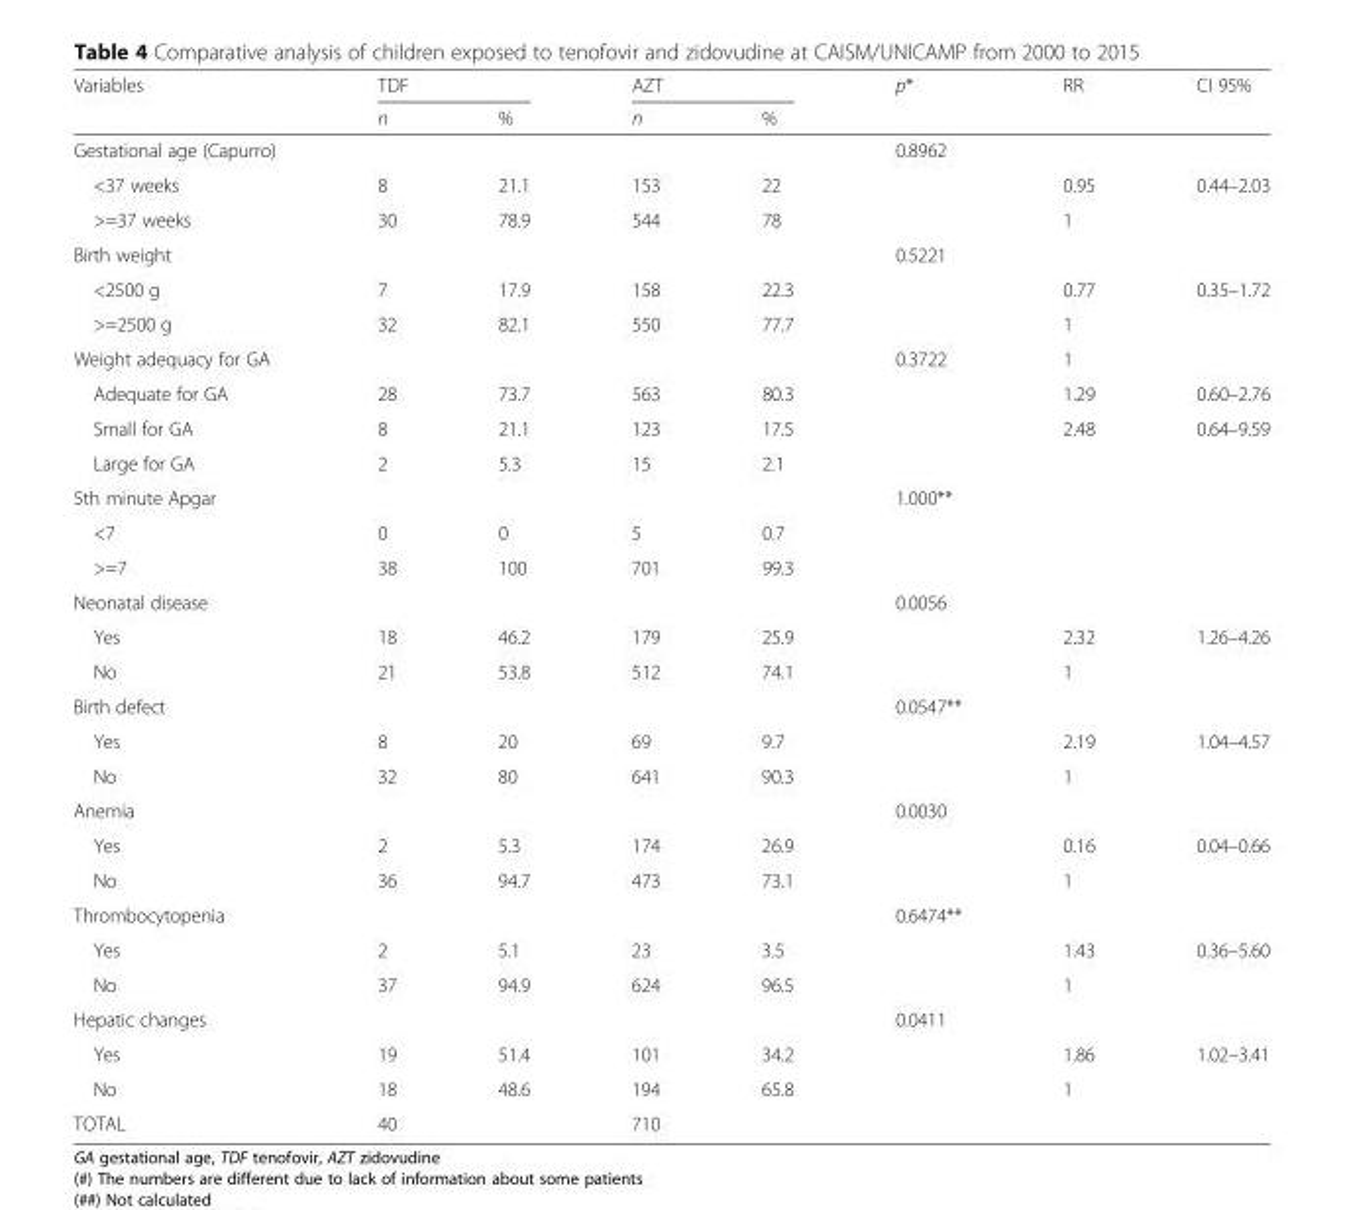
<table><thead><tr><td rowspan="2">Variables</td><td colspan="2">TDF</td><td colspan="2">AZT</td><td rowspan="2">p*</td><td rowspan="2">RR</td><td rowspan="2">CI 95%</td></tr><tr><td>n</td><td>%</td><td>n</td><td>%</td></tr></thead><tbody><tr><td>Gestational age (Capurro)</td><td></td><td></td><td></td><td></td><td>0.8962</td><td></td><td></td></tr><tr><td>&lt;37 weeks</td><td>8</td><td>21.1</td><td>153</td><td>22</td><td></td><td>0.95</td><td>0.44–2.03</td></tr><tr><td>&gt;=37 weeks</td><td>30</td><td>78.9</td><td>544</td><td>78</td><td></td><td>1</td><td></td></tr><tr><td>Birth weight</td><td></td><td></td><td></td><td></td><td>0.5221</td><td></td><td></td></tr><tr><td>&lt;2500 g</td><td>7</td><td>17.9</td><td>158</td><td>22.3</td><td></td><td>0.77</td><td>0.35–1.72</td></tr><tr><td>&gt;=2500 g</td><td>32</td><td>82.1</td><td>550</td><td>77.7</td><td></td><td>1</td><td></td></tr><tr><td>Weight adequacy for GA</td><td></td><td></td><td></td><td></td><td>0.3722</td><td>1</td><td></td></tr><tr><td>Adequate for GA</td><td>28</td><td>73.7</td><td>563</td><td>80.3</td><td></td><td>1.29</td><td>0.60–2.76</td></tr><tr><td>Small for GA</td><td>8</td><td>21.1</td><td>123</td><td>17.5</td><td></td><td>2.48</td><td>0.64–9.59</td></tr><tr><td>Large for GA</td><td>2</td><td>5.3</td><td>15</td><td>2.1</td><td></td><td></td><td></td></tr><tr><td>5th minute Apgar</td><td></td><td></td><td></td><td></td><td>1.000**</td><td></td><td></td></tr><tr><td>&lt;7</td><td>0</td><td>0</td><td>5</td><td>0.7</td><td></td><td></td><td></td></tr><tr><td>&gt;=7</td><td>38</td><td>100</td><td>701</td><td>99.3</td><td></td><td></td><td></td></tr><tr><td>Neonatal disease</td><td></td><td></td><td></td><td></td><td>0.0056</td><td></td><td></td></tr><tr><td>Yes</td><td>18</td><td>46.2</td><td>179</td><td>25.9</td><td></td><td>2.32</td><td>1.26–4.26</td></tr><tr><td>No</td><td>21</td><td>53.8</td><td>512</td><td>74.1</td><td></td><td>1</td><td></td></tr><tr><td>Birth defect</td><td></td><td></td><td></td><td></td><td>0.0547**</td><td></td><td></td></tr><tr><td>Yes</td><td>8</td><td>20</td><td>69</td><td>9.7</td><td></td><td>2.19</td><td>1.04–4.57</td></tr><tr><td>No</td><td>32</td><td>80</td><td>641</td><td>90.3</td><td></td><td>1</td><td></td></tr><tr><td>Anemia</td><td></td><td></td><td></td><td></td><td>0.0030</td><td></td><td></td></tr><tr><td>Yes</td><td>2</td><td>5.3</td><td>174</td><td>26.9</td><td></td><td>0.16</td><td>0.04–0.66</td></tr><tr><td>No</td><td>36</td><td>94.7</td><td>473</td><td>73.1</td><td></td><td>1</td><td></td></tr><tr><td>Thrombocytopenia</td><td></td><td></td><td></td><td></td><td>0.6474**</td><td></td><td></td></tr><tr><td>Yes</td><td>2</td><td>5.1</td><td>23</td><td>3.5</td><td></td><td>1.43</td><td>0.36–5.60</td></tr><tr><td>No</td><td>37</td><td>94.9</td><td>624</td><td>96.5</td><td></td><td>1</td><td></td></tr><tr><td>Hepatic changes</td><td></td><td></td><td></td><td></td><td>0.0411</td><td></td><td></td></tr><tr><td>Yes</td><td>19</td><td>51.4</td><td>101</td><td>34.2</td><td></td><td>1.86</td><td>1.02–3.41</td></tr><tr><td>No</td><td>18</td><td>48.6</td><td>194</td><td>65.8</td><td></td><td>1</td><td></td></tr><tr><td>TOTAL</td><td>40</td><td></td><td>710</td><td></td><td></td><td></td><td></td></tr></tbody></table>